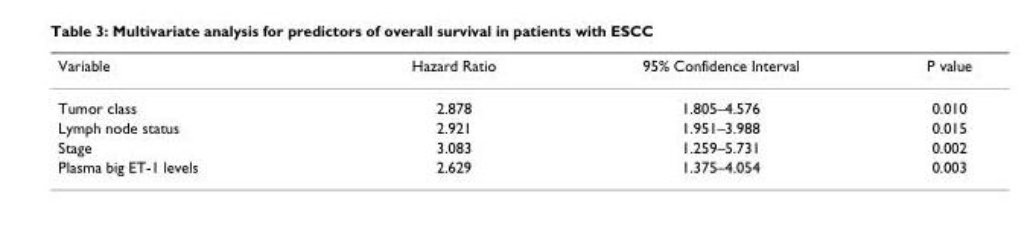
<table><thead><tr><td>Variable</td><td>Hazard Ratio</td><td>95% Confidence Interval</td><td>P value</td></tr></thead><tbody><tr><td>Tumor class</td><td>2.878</td><td>1.805–4.576</td><td>0.010</td></tr><tr><td>Lymph node status</td><td>2.921</td><td>1.951–3.988</td><td>0.015</td></tr><tr><td>Stage</td><td>3.083</td><td>1.259–5.731</td><td>0.002</td></tr><tr><td>Plasma big ET-1 levels</td><td>2.629</td><td>1.375–4.054</td><td>0.003</td></tr></tbody></table>